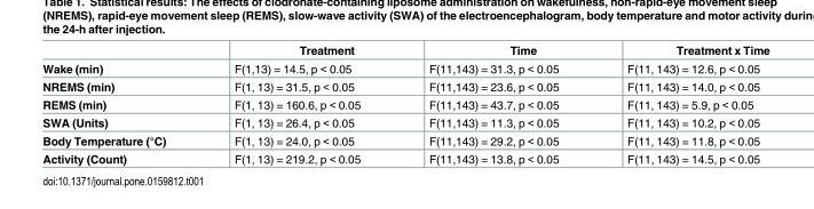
<table><thead><tr><td></td><td>Treatment</td><td>Time</td><td>Treatment x Time</td></tr></thead><tbody><tr><td>Wake (min)</td><td>F(1,13) = 14.5, p &lt; 0.05</td><td>F(11,143) = 31.3, p &lt; 0.05</td><td>F(11, 143) = 12.6, p &lt; 0.05</td></tr><tr><td>NREMS (min)</td><td>F(1, 13) = 31.5, p &lt; 0.05</td><td>F(11,143) = 23.6, p &lt; 0.05</td><td>F(11, 143) = 14.0, p &lt; 0.05</td></tr><tr><td>REMS (min)</td><td>F(1, 13) = 160.6, p &lt; 0.05</td><td>F(11,143) = 43.7, p &lt; 0.05</td><td>F(11, 143) = 5.9, p &lt; 0.05</td></tr><tr><td>SWA (Units)</td><td>F(1, 13) = 26.4, p &lt; 0.05</td><td>F(11,143) = 11.3, p &lt; 0.05</td><td>F(11, 143) = 10.2, p &lt; 0.05</td></tr><tr><td>Body Temperature (°C)</td><td>F(1, 13) = 24.0, p &lt; 0.05</td><td>F(11,143) = 29.2, p &lt; 0.05</td><td>F(11, 143) = 11.8, p &lt; 0.05</td></tr><tr><td>Activity (Count)</td><td>F(1, 13) = 219.2, p &lt; 0.05</td><td>F(11,143) = 13.8, p &lt; 0.05</td><td>F(11, 143) = 14.5, p &lt; 0.05</td></tr></tbody></table>